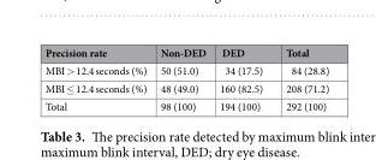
<table><thead><tr><td>Precision rate</td><td>Non-DED</td><td>DED</td><td>Total</td></tr></thead><tbody><tr><td>MBI &gt; 12.4 seconds (%)</td><td>50 (51.0)</td><td>34 (17.5)</td><td>84 (28.8)</td></tr><tr><td>MBI ≤ 12.4 seconds (%)</td><td>48 (49.0)</td><td>160 (82.5)</td><td>208 (71.2)</td></tr><tr><td>Total</td><td>98 (100)</td><td>194 (100)</td><td>292 (100)</td></tr></tbody></table>